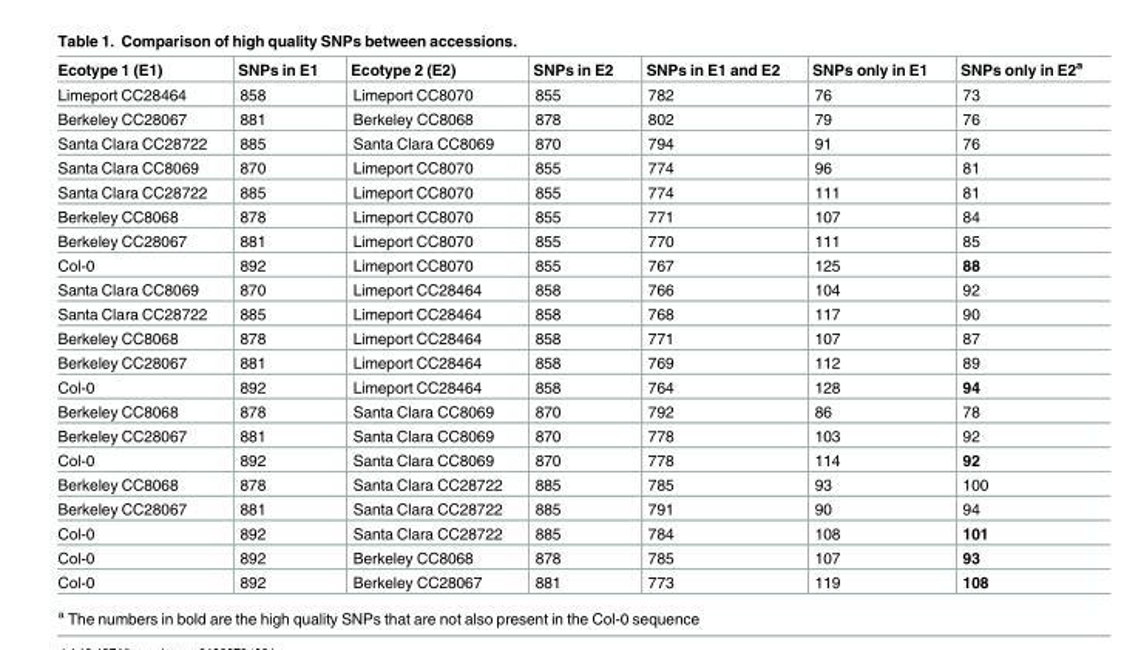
<table><thead><tr><td>Ecotype 1 (E1)</td><td>SNPs in E1</td><td>Ecotype 2 (E2)</td><td>SNPs in E2</td><td>SNPs in E1 and E2</td><td>SNPs only in E1</td><td>SNPs only in E2<sup>a</sup></td></tr></thead><tbody><tr><td>Limeport CC28464</td><td>858</td><td>Limeport CC8070</td><td>855</td><td>782</td><td>76</td><td>73</td></tr><tr><td>Berkeley CC28067</td><td>881</td><td>Berkeley CC8068</td><td>878</td><td>802</td><td>79</td><td>76</td></tr><tr><td>Santa Clara CC28722</td><td>885</td><td>Santa Clara CC8069</td><td>870</td><td>794</td><td>91</td><td>76</td></tr><tr><td>Santa Clara CC8069</td><td>870</td><td>Limeport CC8070</td><td>855</td><td>774</td><td>96</td><td>81</td></tr><tr><td>Santa Clara CC28722</td><td>885</td><td>Limeport CC8070</td><td>855</td><td>774</td><td>111</td><td>81</td></tr><tr><td>Berkeley CC8068</td><td>878</td><td>Limeport CC8070</td><td>855</td><td>771</td><td>107</td><td>84</td></tr><tr><td>Berkeley CC28067</td><td>881</td><td>Limeport CC8070</td><td>855</td><td>770</td><td>111</td><td>85</td></tr><tr><td>Col-0</td><td>892</td><td>Limeport CC8070</td><td>855</td><td>767</td><td>125</td><td>88</td></tr><tr><td>Santa Clara CC8069</td><td>870</td><td>Limeport CC28464</td><td>858</td><td>766</td><td>104</td><td>92</td></tr><tr><td>Santa Clara CC28722</td><td>885</td><td>Limeport CC28464</td><td>858</td><td>768</td><td>117</td><td>90</td></tr><tr><td>Berkeley CC8068</td><td>878</td><td>Limeport CC28464</td><td>858</td><td>771</td><td>107</td><td>87</td></tr><tr><td>Berkeley CC28067</td><td>881</td><td>Limeport CC28464</td><td>858</td><td>769</td><td>112</td><td>89</td></tr><tr><td>Col-0</td><td>892</td><td>Limeport CC28464</td><td>858</td><td>764</td><td>128</td><td>94</td></tr><tr><td>Berkeley CC8068</td><td>878</td><td>Santa Clara CC8069</td><td>870</td><td>792</td><td>86</td><td>78</td></tr><tr><td>Berkeley CC28067</td><td>881</td><td>Santa Clara CC8069</td><td>870</td><td>778</td><td>103</td><td>92</td></tr><tr><td>Col-0</td><td>892</td><td>Santa Clara CC8069</td><td>870</td><td>778</td><td>114</td><td>92</td></tr><tr><td>Berkeley CC8068</td><td>878</td><td>Santa Clara CC28722</td><td>885</td><td>785</td><td>93</td><td>100</td></tr><tr><td>Berkeley CC28067</td><td>881</td><td>Santa Clara CC28722</td><td>885</td><td>791</td><td>90</td><td>94</td></tr><tr><td>Col-0</td><td>892</td><td>Santa Clara CC28722</td><td>885</td><td>784</td><td>108</td><td>101</td></tr><tr><td>Col-0</td><td>892</td><td>Berkeley CC8068</td><td>878</td><td>785</td><td>107</td><td>93</td></tr><tr><td>Col-0</td><td>892</td><td>Berkeley CC28067</td><td>881</td><td>773</td><td>119</td><td>108</td></tr></tbody></table>